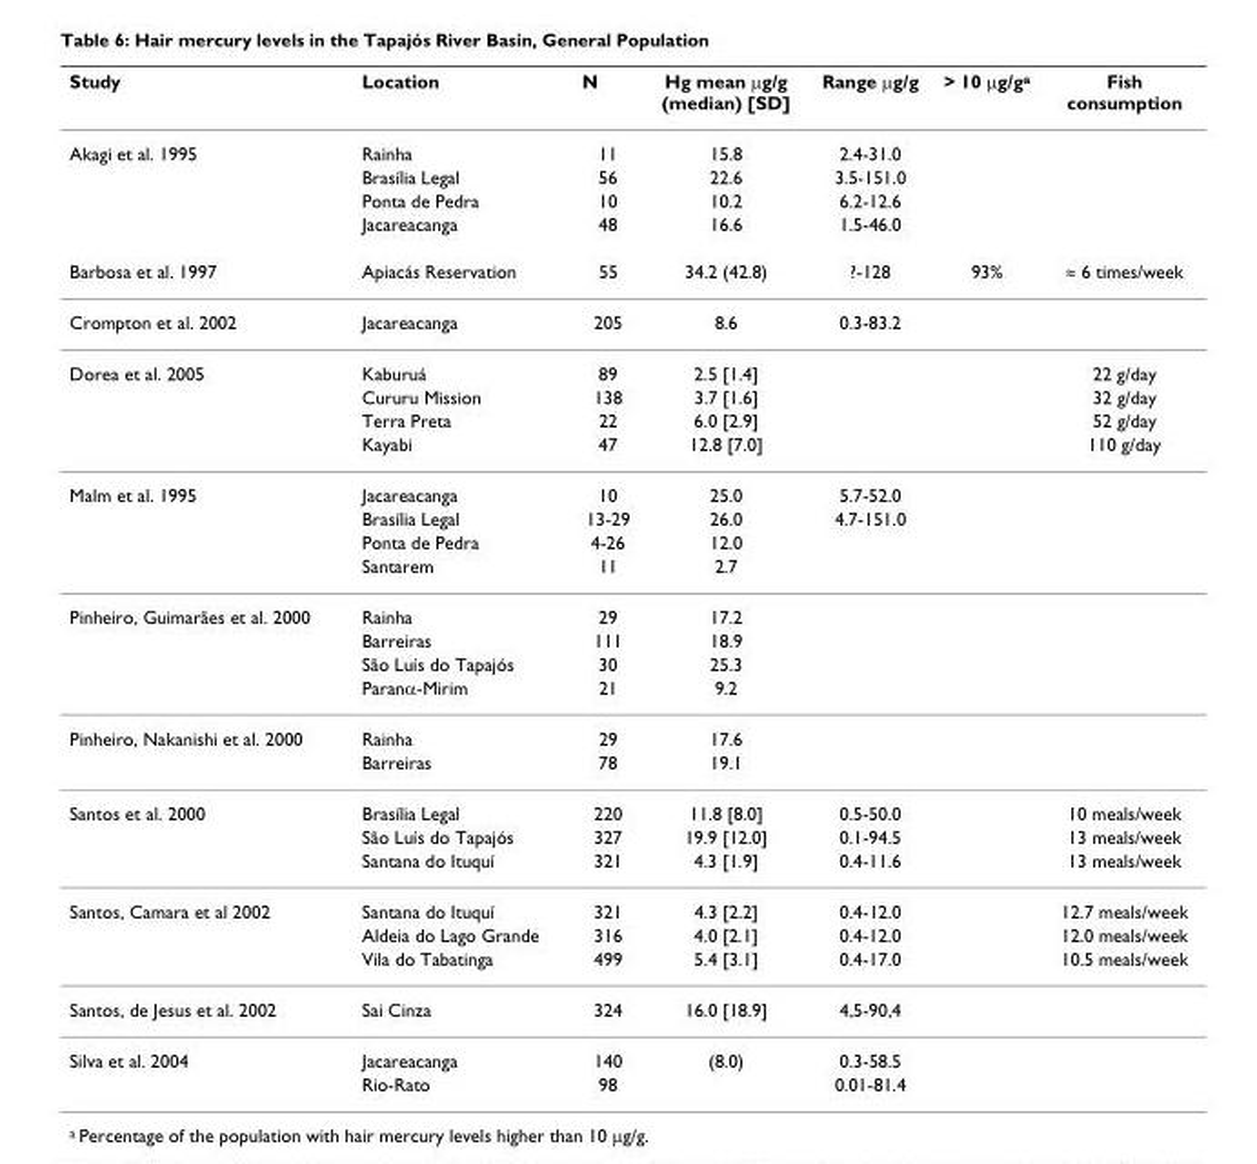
<table><thead><tr><td>Study</td><td>Location</td><td>N</td><td>Hg mean μg/g (median) [SD]</td><td>Range μg/g</td><td>&gt; 10 μg/g<sup>a</sup></td><td>Fish consumption</td></tr></thead><tbody><tr><td rowspan="4">Akagi et al. 1995</td><td>Rainha</td><td>11</td><td>15.8</td><td>2.4-31.0</td><td></td><td></td></tr><tr><td>Brasília Legal</td><td>56</td><td>22.6</td><td>3.5-151.0</td><td></td><td></td></tr><tr><td>Ponta de Pedra</td><td>10</td><td>10.2</td><td>6.2-12.6</td><td></td><td></td></tr><tr><td>Jacareacanga</td><td>48</td><td>16.6</td><td>1.5-46.0</td><td></td><td></td></tr><tr><td>Barbosa et al. 1997</td><td>Apiacás Reservation</td><td>55</td><td>34.2 (42.8)</td><td>?-128</td><td>93%</td><td>≈ 6 times/week</td></tr><tr><td>Crompton et al. 2002</td><td>Jacareacanga</td><td>205</td><td>8.6</td><td>0.3-83.2</td><td></td><td></td></tr><tr><td rowspan="4">Dorea et al. 2005</td><td>Kaburuá</td><td>89</td><td>2.5 [1.4]</td><td></td><td></td><td>22 g/day</td></tr><tr><td>Cururu Mission</td><td>138</td><td>3.7 [1.6]</td><td></td><td></td><td>32 g/day</td></tr><tr><td>Terra Preta</td><td>22</td><td>6.0 [2.9]</td><td></td><td></td><td>52 g/day</td></tr><tr><td>Kayabi</td><td>47</td><td>12.8 [7.0]</td><td></td><td></td><td>110 g/day</td></tr><tr><td rowspan="4">Malm et al. 1995</td><td>Jacareacanga</td><td>10</td><td>25.0</td><td>5.7-52.0</td><td></td><td></td></tr><tr><td>Brasília Legal</td><td>13-29</td><td>26.0</td><td>4.7-151.0</td><td></td><td></td></tr><tr><td>Ponta de Pedra</td><td>4-26</td><td>12.0</td><td></td><td></td><td></td></tr><tr><td>Santarem</td><td>11</td><td>2.7</td><td></td><td></td><td></td></tr><tr><td rowspan="4">Pinheiro, Guimarães et al. 2000</td><td>Rainha</td><td>29</td><td>17.2</td><td></td><td></td><td></td></tr><tr><td>Barreiras</td><td>111</td><td>18.9</td><td></td><td></td><td></td></tr><tr><td>São Luís do Tapajós</td><td>30</td><td>25.3</td><td></td><td></td><td></td></tr><tr><td>Paranα-Mirim</td><td>21</td><td>9.2</td><td></td><td></td><td></td></tr><tr><td rowspan="2">Pinheiro, Nakanishi et al. 2000</td><td>Rainha</td><td>29</td><td>17.6</td><td></td><td></td><td></td></tr><tr><td>Barreiras</td><td>78</td><td>19.1</td><td></td><td></td><td></td></tr><tr><td rowspan="3">Santos et al. 2000</td><td>Brasília Legal</td><td>220</td><td>11.8 [8.0]</td><td>0.5-50.0</td><td></td><td>10 meals/week</td></tr><tr><td>São Luís do Tapajós</td><td>327</td><td>19.9 [12.0]</td><td>0.1-94.5</td><td></td><td>13 meals/week</td></tr><tr><td>Santana do Ituquí</td><td>321</td><td>4.3 [1.9]</td><td>0.4-11.6</td><td></td><td>13 meals/week</td></tr><tr><td rowspan="3">Santos, Camara et al 2002</td><td>Santana do Ituquí</td><td>321</td><td>4.3 [2.2]</td><td>0.4-12.0</td><td></td><td>12.7 meals/week</td></tr><tr><td>Aldeia do Lago Grande</td><td>316</td><td>4.0 [2.1]</td><td>0.4-12.0</td><td></td><td>12.0 meals/week</td></tr><tr><td>Vila do Tabatinga</td><td>499</td><td>5.4 [3.1]</td><td>0.4-17.0</td><td></td><td>10.5 meals/week</td></tr><tr><td>Santos, de Jesus et al. 2002</td><td>Sai Cinza</td><td>324</td><td>16.0 [18.9]</td><td>4,5-90,4</td><td></td><td></td></tr><tr><td rowspan="2">Silva et al. 2004</td><td>Jacareacanga</td><td>140</td><td>(8.0)</td><td>0.3-58.5</td><td></td><td></td></tr><tr><td>Rio-Rato</td><td>98</td><td></td><td>0.01-81.4</td><td></td><td></td></tr></tbody></table>